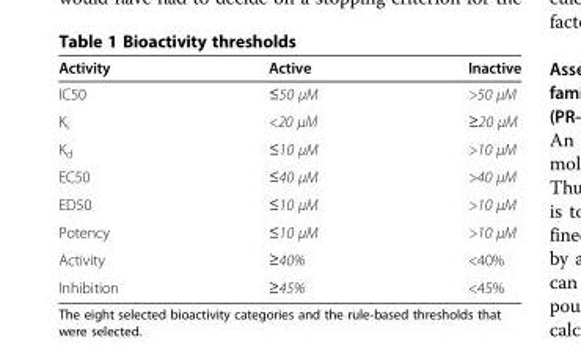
<table><thead><tr><td>Activity</td><td>Active</td><td>Inactive</td></tr></thead><tbody><tr><td>IC50</td><td>≤50 μM</td><td>&gt;50 μM</td></tr><tr><td>K<sub>i</sub></td><td>&lt;20 μM</td><td>≥20 μM</td></tr><tr><td>K<sub>d</sub></td><td>≤10 μM</td><td>&gt;10 μM</td></tr><tr><td>EC50</td><td>≤40 μM</td><td>&gt;40 μM</td></tr><tr><td>ED50</td><td>≤10 μM</td><td>&gt;10 μM</td></tr><tr><td>Potency</td><td>≤10 μM</td><td>&gt;10 μM</td></tr><tr><td>Activity</td><td>≥40%</td><td>&lt;40%</td></tr><tr><td>Inhibition</td><td>≥45%</td><td>&lt;45%</td></tr></tbody></table>